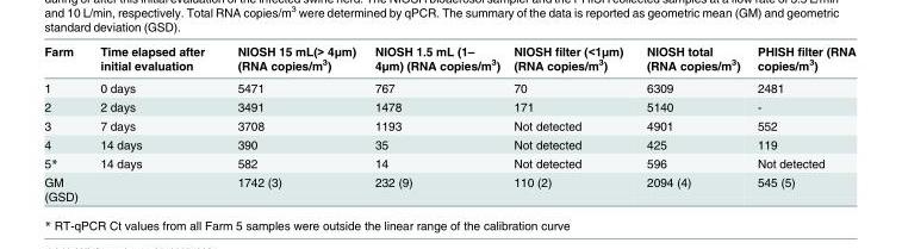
<table><thead><tr><td>Farm</td><td>Time elapsed after initial evaluation</td><td>NIOSH 15 mL(&gt; 4μm) (RNA copies/m<sup>3</sup>)</td><td>NIOSH 1.5 mL (1– 4μm) (RNA copies/m<sup>3</sup>)</td><td>NIOSH filter (&lt;1μm) (RNA copies/m<sup>3</sup>)</td><td>NIOSH total (RNA copies/m<sup>3</sup>)</td><td>PHISH filter (RNA copies/m<sup>3</sup>)</td></tr></thead><tbody><tr><td>1</td><td>0 days</td><td>5471</td><td>767</td><td>70</td><td>6309</td><td>2481</td></tr><tr><td>2</td><td>2 days</td><td>3491</td><td>1478</td><td>171</td><td>5140</td><td>-</td></tr><tr><td>3</td><td>7 days</td><td>3708</td><td>1193</td><td>Not detected</td><td>4901</td><td>552</td></tr><tr><td>4</td><td>14 days</td><td>390</td><td>35</td><td>Not detected</td><td>425</td><td>119</td></tr><tr><td>5*</td><td>14 days</td><td>582</td><td>14</td><td>Not detected</td><td>596</td><td>Not detected</td></tr><tr><td>GM (GSD)</td><td></td><td>1742 (3)</td><td>232 (9)</td><td>110 (2)</td><td>2094 (4)</td><td>545 (5)</td></tr></tbody></table>